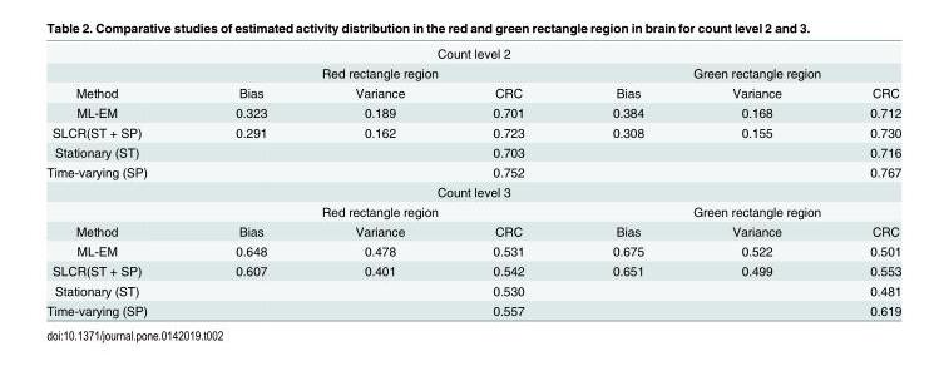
<table><tbody><tr><td colspan="7">Count level 2</td></tr><tr><td></td><td colspan="3">Red rectangle region</td><td colspan="3">Green rectangle region</td></tr><tr><td>Method</td><td>Bias</td><td>Variance</td><td>CRC</td><td>Bias</td><td>Variance</td><td>CRC</td></tr><tr><td>ML-EM</td><td>0.323</td><td>0.189</td><td>0.701</td><td>0.384</td><td>0.168</td><td>0.712</td></tr><tr><td>SLCR(ST + SP)</td><td>0.291</td><td>0.162</td><td>0.723</td><td>0.308</td><td>0.155</td><td>0.730</td></tr><tr><td>Stationary (ST)</td><td></td><td></td><td>0.703</td><td></td><td></td><td>0.716</td></tr><tr><td>Time-varying (SP)</td><td></td><td></td><td>0.752</td><td></td><td></td><td>0.767</td></tr><tr><td colspan="7">Count level 3</td></tr><tr><td></td><td colspan="3">Red rectangle region</td><td colspan="3">Green rectangle region</td></tr><tr><td>Method</td><td>Bias</td><td>Variance</td><td>CRC</td><td>Bias</td><td>Variance</td><td>CRC</td></tr><tr><td>ML-EM</td><td>0.648</td><td>0.478</td><td>0.531</td><td>0.675</td><td>0.522</td><td>0.501</td></tr><tr><td>SLCR(ST + SP)</td><td>0.607</td><td>0.401</td><td>0.542</td><td>0.651</td><td>0.499</td><td>0.553</td></tr><tr><td>Stationary (ST)</td><td></td><td></td><td>0.530</td><td></td><td></td><td>0.481</td></tr><tr><td>Time-varying (SP)</td><td></td><td></td><td>0.557</td><td></td><td></td><td>0.619</td></tr></tbody></table>